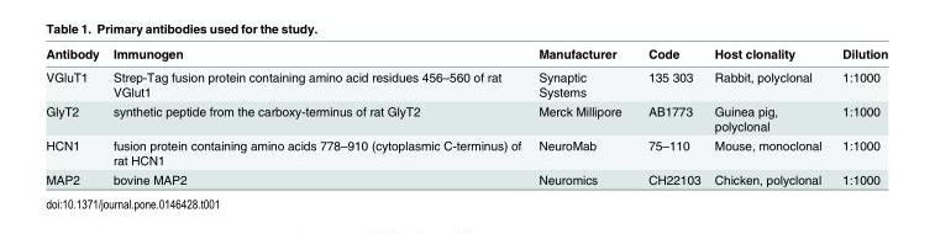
<table><thead><tr><td>Antibody</td><td>Immunogen</td><td>Manufacturer</td><td>Code</td><td>Host clonality</td><td>Dilution</td></tr></thead><tbody><tr><td>VGluT1</td><td>Strep-Tag fusion protein containing amino acid residues 456–560 of rat VGlut1</td><td>Synaptic Systems</td><td>135 303</td><td>Rabbit, polyclonal</td><td>1:1000</td></tr><tr><td>GlyT2</td><td>synthetic peptide from the carboxy-terminus of rat GlyT2</td><td>Merck Millipore</td><td>AB1773</td><td>Guinea pig, polyclonal</td><td>1:1000</td></tr><tr><td>HCN1</td><td>fusion protein containing amino acids 778–910 (cytoplasmic C-terminus) of rat HCN1</td><td>NeuroMab</td><td>75–110</td><td>Mouse, monoclonal</td><td>1:1000</td></tr><tr><td>MAP2</td><td>bovine MAP2</td><td>Neuromics</td><td>CH22103</td><td>Chicken, polyclonal</td><td>1:1000</td></tr></tbody></table>